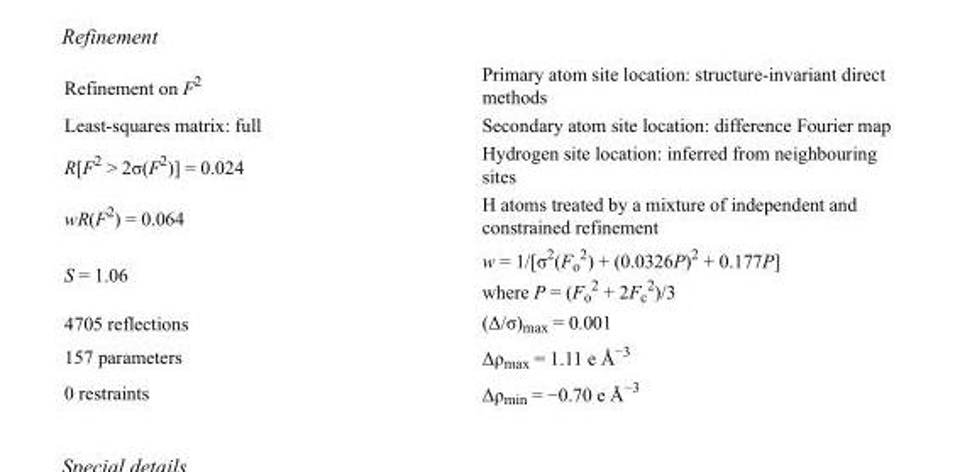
<table><tbody><tr><td>Refinement on F<sup>2</sup></td><td>Primary atom site location: structure-invariant direct methods</td></tr><tr><td>Least-squares matrix: full</td><td>Secondary atom site location: difference Fourier map</td></tr><tr><td>R[F<sup>2</sup> &gt; 2σ(F<sup>2</sup>)] = 0.024</td><td>Hydrogen site location: inferred from neighbouring sites</td></tr><tr><td>wR(F<sup>2</sup>) = 0.064</td><td>H atoms treated by a mixture of independent and constrained refinement</td></tr><tr><td>S = 1.06</td><td>w = 1/[σ<sup>2</sup>(F<sub>o</sub> <sup>2</sup>) + (0.0326P)<sup>2</sup> + 0.177P] where P = (F<sub>o</sub> <sup>2</sup> + 2F<sub>c</sub> <sup>2</sup>)/3</td></tr><tr><td>4705 reflections</td><td>(Δ/σ)<sub>max</sub> = 0.001</td></tr><tr><td>157 parameters</td><td>Δρ<sub>max</sub> = 1.11 e Å<sup>−3</sup></td></tr><tr><td>0 restraints</td><td>Δρ<sub>min</sub> = −0.70 e Å<sup>−3</sup></td></tr></tbody></table>